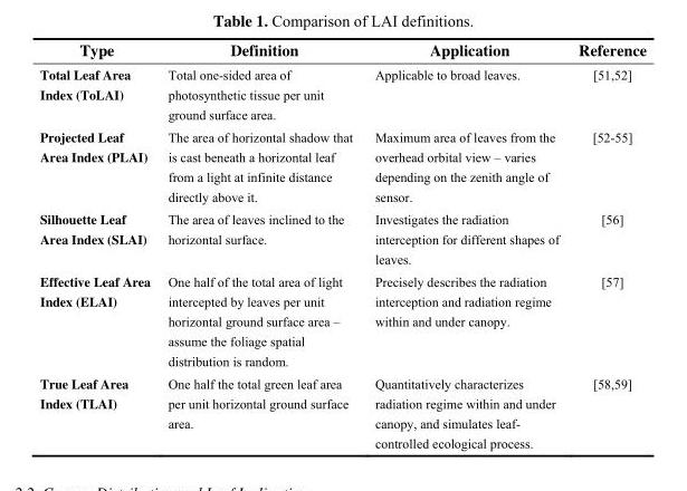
<table><thead><tr><td>Type</td><td>Definition</td><td>Application</td><td>Reference</td></tr></thead><tbody><tr><td>Total Leaf Area Index (ToLAI)</td><td>Total one-sided area of photosynthetic tissue per unit ground surface area.</td><td>Applicable to broad leaves.</td><td>[51,52]</td></tr><tr><td>Projected Leaf Area Index (PLAI)</td><td>The area of horizontal shadow that is cast beneath a horizontal leaf from a light at infinite distance directly above it.</td><td>Maximum area of leaves from the overhead orbital view – varies depending on the zenith angle of sensor.</td><td>[52-55]</td></tr><tr><td>Silhouette Leaf Area Index (SLAI)</td><td>The area of leaves inclined to the horizontal surface.</td><td>Investigates the radiation interception for different shapes of leaves.</td><td>[56]</td></tr><tr><td>Effective Leaf Area Index (ELAI)</td><td>One half of the total area of light intercepted by leaves per unit horizontal ground surface area – assume the foliage spatial distribution is random.</td><td>Precisely describes the radiation interception and radiation regime within and under canopy.</td><td>[57]</td></tr><tr><td>True Leaf Area Index (TLAI)</td><td>One half the total green leaf area per unit horizontal ground surface area.</td><td>Quantitatively characterizes radiation regime within and under canopy, and simulates leaf- controlled ecological process.</td><td>[58,59]</td></tr></tbody></table>